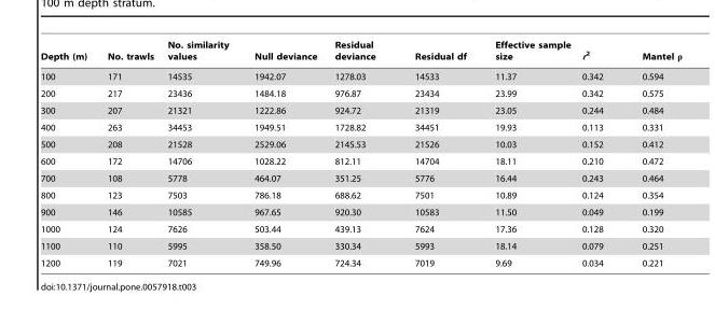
<table><thead><tr><td>Depth (m)</td><td>No. trawls</td><td>No. similarity values</td><td>Null deviance</td><td>Residual deviance</td><td>Residual df</td><td>Effective sample size</td><td>r<sup>2</sup></td><td>Mantel</td></tr></thead><tbody><tr><td>100</td><td>171</td><td>14535</td><td>1942.07</td><td>1278.03</td><td>14533</td><td>11.37</td><td>0.342</td><td>0.594</td></tr><tr><td>200</td><td>217</td><td>23436</td><td>1484.18</td><td>976.87</td><td>23434</td><td>23.99</td><td>0.342</td><td>0.575</td></tr><tr><td>300</td><td>207</td><td>21321</td><td>1222.86</td><td>924.72</td><td>21319</td><td>23.05</td><td>0.244</td><td>0.484</td></tr><tr><td>400</td><td>263</td><td>34453</td><td>1949.51</td><td>1728.82</td><td>34451</td><td>19.93</td><td>0.113</td><td>0.331</td></tr><tr><td>500</td><td>208</td><td>21528</td><td>2529.06</td><td>2145.53</td><td>21526</td><td>10.03</td><td>0.152</td><td>0.412</td></tr><tr><td>600</td><td>172</td><td>14706</td><td>1028.22</td><td>812.11</td><td>14704</td><td>18.11</td><td>0.210</td><td>0.472</td></tr><tr><td>700</td><td>108</td><td>5778</td><td>464.07</td><td>351.25</td><td>5776</td><td>16.44</td><td>0.243</td><td>0.464</td></tr><tr><td>800</td><td>123</td><td>7503</td><td>786.18</td><td>688.62</td><td>7501</td><td>10.89</td><td>0.124</td><td>0.354</td></tr><tr><td>900</td><td>146</td><td>10585</td><td>967.65</td><td>920.30</td><td>10583</td><td>11.50</td><td>0.049</td><td>0.199</td></tr><tr><td>1000</td><td>124</td><td>7626</td><td>503.44</td><td>439.13</td><td>7624</td><td>17.36</td><td>0.128</td><td>0.320</td></tr><tr><td>1100</td><td>110</td><td>5995</td><td>358.50</td><td>330.34</td><td>5993</td><td>18.14</td><td>0.079</td><td>0.251</td></tr><tr><td>1200</td><td>119</td><td>7021</td><td>749.96</td><td>724.34</td><td>7019</td><td>9.69</td><td>0.034</td><td>0.221</td></tr></tbody></table>